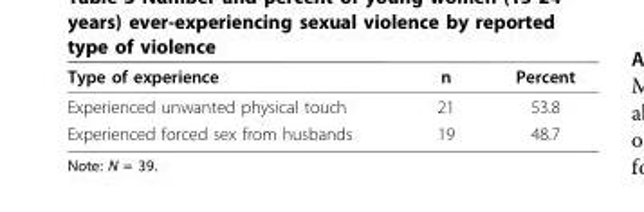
<table><thead><tr><td>Type of experience</td><td>n</td><td>Percent</td></tr></thead><tbody><tr><td>Experienced unwanted physical touch</td><td>21</td><td>53.8</td></tr><tr><td>Experienced forced sex from husbands</td><td>19</td><td>48.7</td></tr></tbody></table>